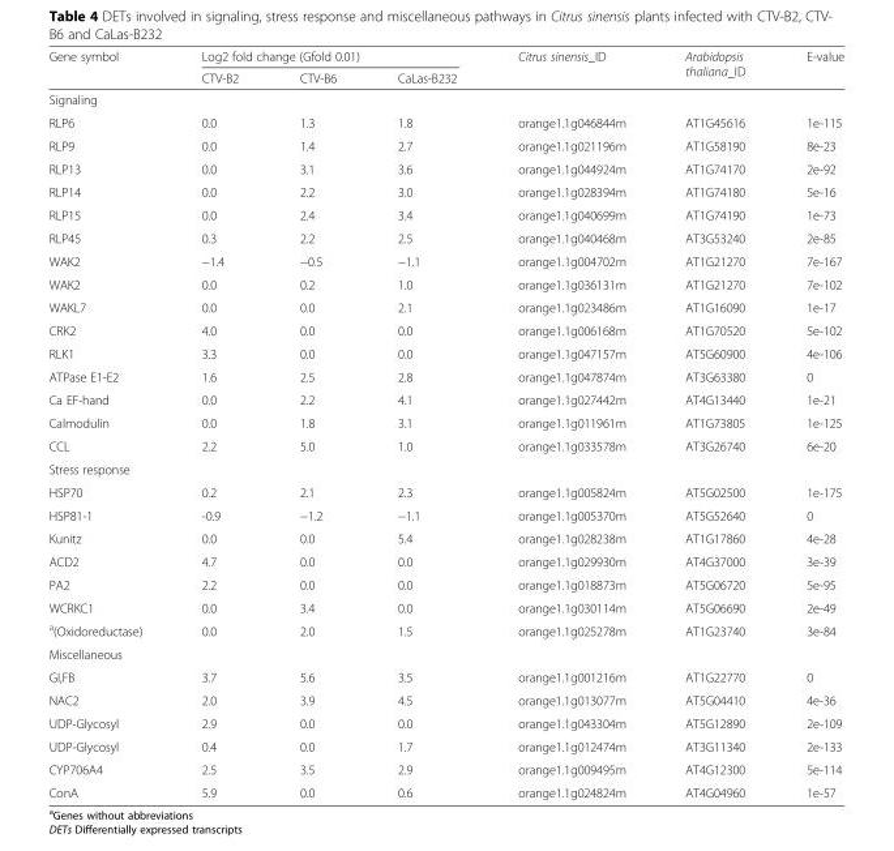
<table><thead><tr><td rowspan="2">Gene symbol</td><td colspan="3">Log2 fold change (Gfold 0.01)</td><td rowspan="2">Citrus sinensis_ID</td><td rowspan="2">Arabidopsis thaliana_ID</td><td rowspan="2">E-value</td></tr><tr><td>CTV-B2</td><td>CTV-B6</td><td>CaLas-B232</td></tr></thead><tbody><tr><td colspan="7">Signaling</td></tr><tr><td>RLP6</td><td>0.0</td><td>1.3</td><td>1.8</td><td>orange1.1g046844m</td><td>AT1G45616</td><td>1e-115</td></tr><tr><td>RLP9</td><td>0.0</td><td>1.4</td><td>2.7</td><td>orange1.1g021196m</td><td>AT1G58190</td><td>8e-23</td></tr><tr><td>RLP13</td><td>0.0</td><td>3.1</td><td>3.6</td><td>orange1.1g044924m</td><td>AT1G74170</td><td>2e-92</td></tr><tr><td>RLP14</td><td>0.0</td><td>2.2</td><td>3.0</td><td>orange1.1g028394m</td><td>AT1G74180</td><td>5e-16</td></tr><tr><td>RLP15</td><td>0.0</td><td>2.4</td><td>3.4</td><td>orange1.1g040699m</td><td>AT1G74190</td><td>1e-73</td></tr><tr><td>RLP45</td><td>0.3</td><td>2.2</td><td>2.5</td><td>orange1.1g040468m</td><td>AT3G53240</td><td>2e-85</td></tr><tr><td>WAK2</td><td>−1.4</td><td>−0.5</td><td>−1.1</td><td>orange1.1g004702m</td><td>AT1G21270</td><td>7e-167</td></tr><tr><td>WAK2</td><td>0.0</td><td>0.2</td><td>1.0</td><td>orange1.1g036131m</td><td>AT1G21270</td><td>7e-102</td></tr><tr><td>WAKL7</td><td>0.0</td><td>0.0</td><td>2.1</td><td>orange1.1g023486m</td><td>AT1G16090</td><td>1e-17</td></tr><tr><td>CRK2</td><td>4.0</td><td>0.0</td><td>0.0</td><td>orange1.1g006168m</td><td>AT1G70520</td><td>5e-102</td></tr><tr><td>RLK1</td><td>3.3</td><td>0.0</td><td>0.0</td><td>orange1.1g047157m</td><td>AT5G60900</td><td>4e-106</td></tr><tr><td>ATPase E1-E2</td><td>1.6</td><td>2.5</td><td>2.8</td><td>orange1.1g047874m</td><td>AT3G63380</td><td>0</td></tr><tr><td>Ca EF-hand</td><td>0.0</td><td>2.2</td><td>4.1</td><td>orange1.1g027442m</td><td>AT4G13440</td><td>1e-21</td></tr><tr><td>Calmodulin</td><td>0.0</td><td>1.8</td><td>3.1</td><td>orange1.1g011961m</td><td>AT1G73805</td><td>1e-125</td></tr><tr><td>CCL</td><td>2.2</td><td>5.0</td><td>1.0</td><td>orange1.1g033578m</td><td>AT3G26740</td><td>6e-20</td></tr><tr><td colspan="7">Stress response</td></tr><tr><td>HSP70</td><td>0.2</td><td>2.1</td><td>2.3</td><td>orange1.1g005824m</td><td>AT5G02500</td><td>1e-175</td></tr><tr><td>HSP81-1</td><td>-0.9</td><td>−1.2</td><td>−1.1</td><td>orange1.1g005370m</td><td>AT5G52640</td><td>0</td></tr><tr><td>Kunitz</td><td>0.0</td><td>0.0</td><td>5.4</td><td>orange1.1g028238m</td><td>AT1G17860</td><td>4e-28</td></tr><tr><td>ACD2</td><td>4.7</td><td>0.0</td><td>0.0</td><td>orange1.1g029930m</td><td>AT4G37000</td><td>3e-39</td></tr><tr><td>PA2</td><td>2.2</td><td>0.0</td><td>0.0</td><td>orange1.1g018873m</td><td>AT5G06720</td><td>5e-95</td></tr><tr><td>WCRKC1</td><td>0.0</td><td>3.4</td><td>0.0</td><td>orange1.1g030114m</td><td>AT5G06690</td><td>2e-49</td></tr><tr><td><sup>a</sup>(Oxidoreductase)</td><td>0.0</td><td>2.0</td><td>1.5</td><td>orange1.1g025278m</td><td>AT1G23740</td><td>3e-84</td></tr><tr><td colspan="7">Miscellaneous</td></tr><tr><td>GI,FB</td><td>3.7</td><td>5.6</td><td>3.5</td><td>orange1.1g001216m</td><td>AT1G22770</td><td>0</td></tr><tr><td>NAC2</td><td>2.0</td><td>3.9</td><td>4.5</td><td>orange1.1g013077m</td><td>AT5G04410</td><td>4e-36</td></tr><tr><td>UDP-Glycosyl</td><td>2.9</td><td>0.0</td><td>0.0</td><td>orange1.1g043304m</td><td>AT5G12890</td><td>2e-109</td></tr><tr><td>UDP-Glycosyl</td><td>0.4</td><td>0.0</td><td>1.7</td><td>orange1.1g012474m</td><td>AT3G11340</td><td>2e-133</td></tr><tr><td>CYP706A4</td><td>2.5</td><td>3.5</td><td>2.9</td><td>orange1.1g009495m</td><td>AT4G12300</td><td>5e-114</td></tr><tr><td>ConA</td><td>5.9</td><td>0.0</td><td>0.6</td><td>orange1.1g024824m</td><td>AT4G04960</td><td>1e-57</td></tr></tbody></table>